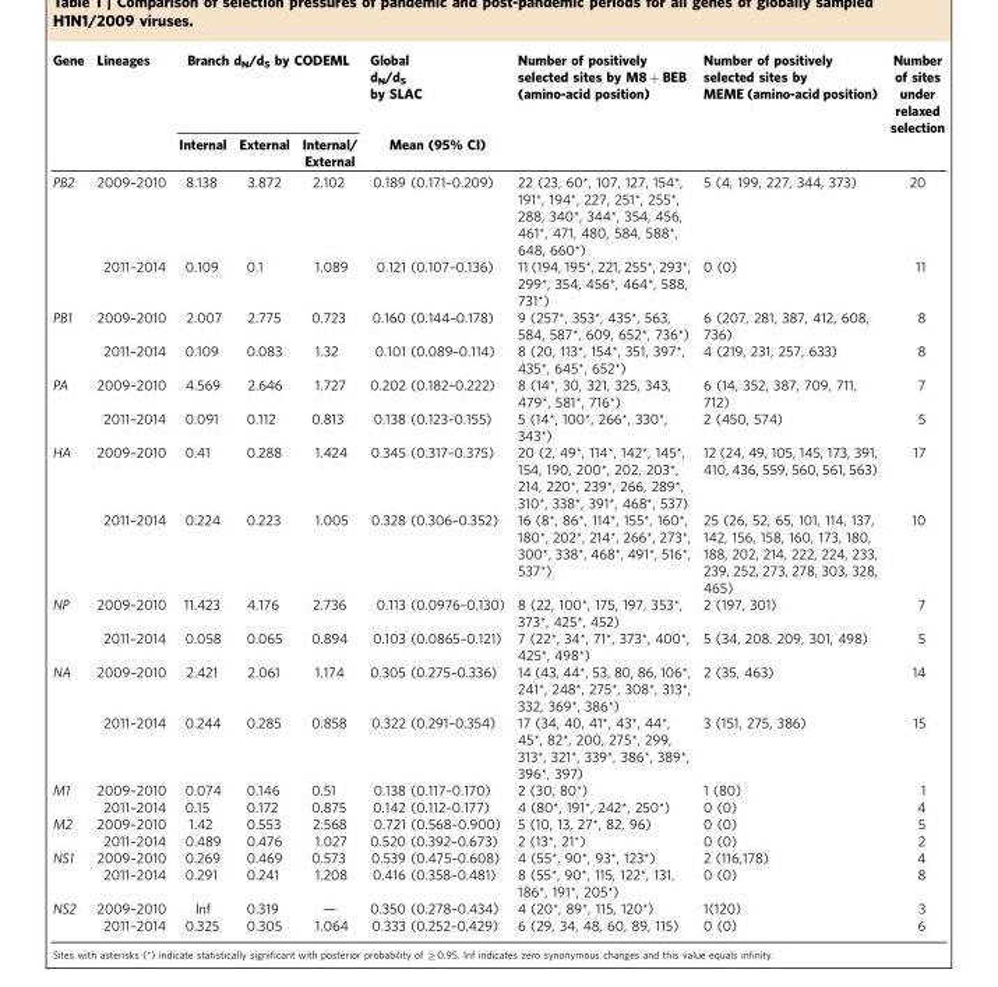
<table><thead><tr><td rowspan="2">Gene</td><td rowspan="2">Lineages</td><td colspan="3">Branch d<sub>N</sub>/d<sub>S</sub> by CODEML</td><td rowspan="2">Global d<sub>N</sub>/d<sub>S</sub> by SLAC Mean (95% CI)</td><td rowspan="2">Number of positively selected sites by M8 + BEB (amino-acid position)</td><td rowspan="2">Number of positively selected sites by MEME (amino-acid position)</td><td rowspan="2">Number of sites under relaxed selection</td></tr><tr><td>Internal</td><td>External</td><td>Internal/ External</td></tr></thead><tbody><tr><td rowspan="2">PB2</td><td>2009–2010</td><td>8.138</td><td>3.872</td><td>2.102</td><td>0.189 (0.171–0.209)</td><td>22 (23, 60*, 107, 127, 154*, 191*, 194*, 227, 251*, 255*, 288, 340*, 344*, 354, 456, 461*, 471, 480, 584, 588*, 648, 660*)</td><td>5 (4, 199, 227, 344, 373)</td><td>20</td></tr><tr><td>2011–2014</td><td>0.109</td><td>0.1</td><td>1.089</td><td>0.121 (0.107–0.136)</td><td>11 (194, 195*, 221, 255*, 293*, 299*, 354, 456*, 464*, 588, 731*)</td><td>0 (0)</td><td>11</td></tr><tr><td rowspan="2">PB1</td><td>2009–2010</td><td>2.007</td><td>2.775</td><td>0.723</td><td>0.160 (0.144–0.178)</td><td>9 (257*, 353*, 435*, 563, 584, 587*, 609, 652*, 736*)</td><td>6 (207, 281, 387, 412, 608, 736)</td><td>8</td></tr><tr><td>2011–2014</td><td>0.109</td><td>0.083</td><td>1.32</td><td>0.101 (0.089–0.114)</td><td>8 (20, 113*, 154*, 351, 397*, 435*, 645*, 652*)</td><td>4 (219, 231, 257, 633)</td><td>8</td></tr><tr><td rowspan="2">PA</td><td>2009–2010</td><td>4.569</td><td>2.646</td><td>1.727</td><td>0.202 (0.182–0.222)</td><td>8 (14*, 30, 321, 325, 343, 479*, 581*, 716*)</td><td>6 (14, 352, 387, 709, 711, 712)</td><td>7</td></tr><tr><td>2011–2014</td><td>0.091</td><td>0.112</td><td>0.813</td><td>0.138 (0.123–0.155)</td><td>5 (14*, 100*, 266*, 330*, 343*)</td><td>2 (450, 574)</td><td>5</td></tr><tr><td rowspan="2">HA</td><td>2009–2010</td><td>0.41</td><td>0.288</td><td>1.424</td><td>0.345 (0.317–0.375)</td><td>20 (2, 49*, 114*, 142*, 145*, 154, 190, 200*, 202, 203*, 214, 220*, 239*, 266, 289*, 310*, 338*, 391*, 468*, 537)</td><td>12 (24, 49, 105, 145, 173, 391, 410, 436, 559, 560, 561, 563)</td><td>17</td></tr><tr><td>2011–2014</td><td>0.224</td><td>0.223</td><td>1.005</td><td>0.328 (0.306–0.352)</td><td>16 (8*, 86*, 114*, 155*, 160*, 180*, 202*, 214*, 266*, 273*, 300*, 338*, 468*, 491*, 516*, 537*)</td><td>25 (26, 52, 65, 101, 114, 137, 142, 156, 158, 160, 173, 180, 188, 202, 214, 222, 224, 233, 239, 252, 273, 278, 303, 328, 465)</td><td>10</td></tr><tr><td rowspan="2">NP</td><td>2009–2010</td><td>11.423</td><td>4.176</td><td>2.736</td><td>0.113 (0.0976–0.130)</td><td>8 (22, 100*, 175, 197, 353*, 373*, 425*, 452)</td><td>2 (197, 301)</td><td>7</td></tr><tr><td>2011–2014</td><td>0.058</td><td>0.065</td><td>0.894</td><td>0.103 (0.0865–0.121)</td><td>7 (22*, 34*, 71*, 373*, 400*, 425*, 498*)</td><td>5 (34, 208. 209, 301, 498)</td><td>5</td></tr><tr><td rowspan="2">NA</td><td>2009–2010</td><td>2.421</td><td>2.061</td><td>1.174</td><td>0.305 (0.275–0.336)</td><td>14 (43, 44*, 53, 80, 86, 106*, 241*, 248*, 275*, 308*, 313*, 332, 369*, 386*)</td><td>2 (35, 463)</td><td>14</td></tr><tr><td>2011–2014</td><td>0.244</td><td>0.285</td><td>0.858</td><td>0.322 (0.291–0.354)</td><td>17 (34, 40, 41*, 43*, 44*, 45*, 82*, 200, 275*, 299, 313*, 321*, 339*, 386*, 389*, 396*, 397)</td><td>3 (151, 275, 386)</td><td>15</td></tr><tr><td rowspan="2">M1</td><td>2009–2010</td><td>0.074</td><td>0.146</td><td>0.51</td><td>0.138 (0.117–0.170)</td><td>2 (30, 80*)</td><td>1 (80)</td><td>1</td></tr><tr><td>2011–2014</td><td>0.15</td><td>0.172</td><td>0.875</td><td>0.142 (0.112–0.177)</td><td>4 (80*, 191*, 242*, 250*)</td><td>0 (0)</td><td>4</td></tr><tr><td rowspan="2">M2</td><td>2009–2010</td><td>1.42</td><td>0.553</td><td>2.568</td><td>0.721 (0.568–0.900)</td><td>5 (10, 13, 27*, 82, 96)</td><td>0 (0)</td><td>5</td></tr><tr><td>2011–2014</td><td>0.489</td><td>0.476</td><td>1.027</td><td>0.520 (0.392–0.673)</td><td>2 (13*, 21*)</td><td>0 (0)</td><td>2</td></tr><tr><td rowspan="2">NS1</td><td>2009–2010</td><td>0.269</td><td>0.469</td><td>0.573</td><td>0.539 (0.475–0.608)</td><td>4 (55*, 90*, 93*, 123*)</td><td>2 (116,178)</td><td>4</td></tr><tr><td>2011–2014</td><td>0.291</td><td>0.241</td><td>1.208</td><td>0.416 (0.358–0.481)</td><td>8 (55*, 90*, 115, 122*, 131, 186*, 191*, 205*)</td><td>0 (0)</td><td>8</td></tr><tr><td rowspan="2">NS2</td><td>2009–2010</td><td>Inf</td><td>0.319</td><td>—</td><td>0.350 (0.278–0.434)</td><td>4 (20*, 89*, 115, 120*)</td><td>1(120)</td><td>3</td></tr><tr><td>2011–2014</td><td>0.325</td><td>0.305</td><td>1.064</td><td>0.333 (0.252–0.429)</td><td>6 (29, 34, 48, 60, 89, 115)</td><td>0 (0)</td><td>6</td></tr></tbody></table>